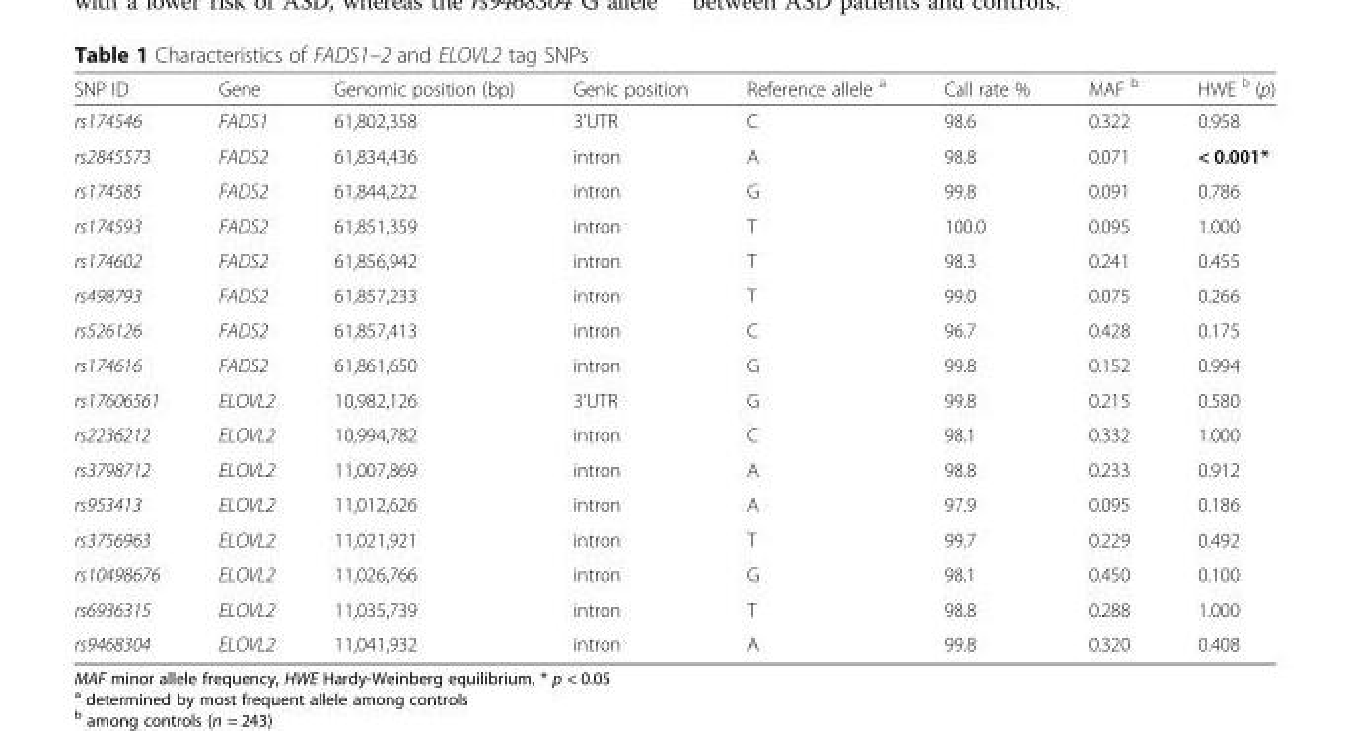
<table><thead><tr><td>SNP ID</td><td>Gene</td><td>Genomic position (bp)</td><td>Genic position</td><td>Reference allele <sup>a</sup></td><td>Call rate %</td><td>MAF <sup>b</sup></td><td>HWE <sup>b</sup> (p)</td></tr></thead><tbody><tr><td>rs174546</td><td>FADS1</td><td>61,802,358</td><td>3’UTR</td><td>C</td><td>98.6</td><td>0.322</td><td>0.958</td></tr><tr><td>rs2845573</td><td>FADS2</td><td>61,834,436</td><td>intron</td><td>A</td><td>98.8</td><td>0.071</td><td>&lt; 0.001*</td></tr><tr><td>rs174585</td><td>FADS2</td><td>61,844,222</td><td>intron</td><td>G</td><td>99.8</td><td>0.091</td><td>0.786</td></tr><tr><td>rs174593</td><td>FADS2</td><td>61,851,359</td><td>intron</td><td>T</td><td>100.0</td><td>0.095</td><td>1.000</td></tr><tr><td>rs174602</td><td>FADS2</td><td>61,856,942</td><td>intron</td><td>T</td><td>98.3</td><td>0.241</td><td>0.455</td></tr><tr><td>rs498793</td><td>FADS2</td><td>61,857,233</td><td>intron</td><td>T</td><td>99.0</td><td>0.075</td><td>0.266</td></tr><tr><td>rs526126</td><td>FADS2</td><td>61,857,413</td><td>intron</td><td>C</td><td>96.7</td><td>0.428</td><td>0.175</td></tr><tr><td>rs174616</td><td>FADS2</td><td>61,861,650</td><td>intron</td><td>G</td><td>99.8</td><td>0.152</td><td>0.994</td></tr><tr><td>rs17606561</td><td>ELOVL2</td><td>10,982,126</td><td>3’UTR</td><td>G</td><td>99.8</td><td>0.215</td><td>0.580</td></tr><tr><td>rs2236212</td><td>ELOVL2</td><td>10,994,782</td><td>intron</td><td>C</td><td>98.1</td><td>0.332</td><td>1.000</td></tr><tr><td>rs3798712</td><td>ELOVL2</td><td>11,007,869</td><td>intron</td><td>A</td><td>98.8</td><td>0.233</td><td>0.912</td></tr><tr><td>rs953413</td><td>ELOVL2</td><td>11,012,626</td><td>intron</td><td>A</td><td>97.9</td><td>0.095</td><td>0.186</td></tr><tr><td>rs3756963</td><td>ELOVL2</td><td>11,021,921</td><td>intron</td><td>T</td><td>99.7</td><td>0.229</td><td>0.492</td></tr><tr><td>rs10498676</td><td>ELOVL2</td><td>11,026,766</td><td>intron</td><td>G</td><td>98.1</td><td>0.450</td><td>0.100</td></tr><tr><td>rs6936315</td><td>ELOVL2</td><td>11,035,739</td><td>intron</td><td>T</td><td>98.8</td><td>0.288</td><td>1.000</td></tr><tr><td>rs9468304</td><td>ELOVL2</td><td>11,041,932</td><td>intron</td><td>A</td><td>99.8</td><td>0.320</td><td>0.408</td></tr></tbody></table>